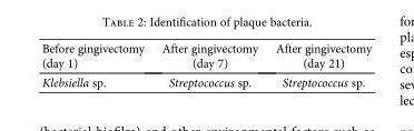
<table><thead><tr><td>Before gingivectomy (day 1)</td><td>After gingivectomy (day 7)</td><td>After gingivectomy (day 21)</td></tr></thead><tbody><tr><td>Klebsiella sp.</td><td>Streptococcus sp.</td><td>Streptococcus sp.</td></tr></tbody></table>